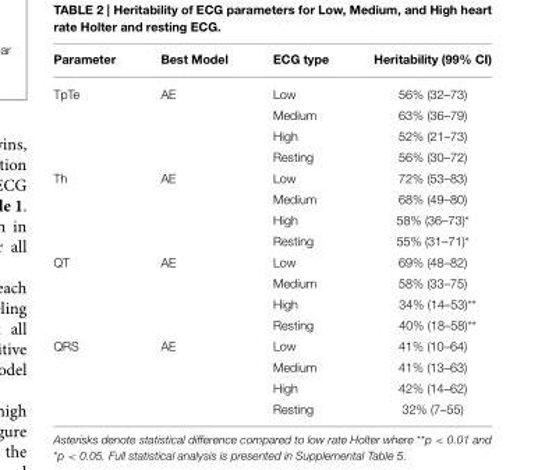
<table><thead><tr><td>Parameter</td><td>Best Model</td><td>ECG type</td><td>Heritability (99% CI)</td></tr></thead><tbody><tr><td rowspan="4">TpTe</td><td>AE</td><td>Low</td><td>56% (32–73)</td></tr><tr><td></td><td>Medium</td><td>63% (36–79)</td></tr><tr><td></td><td>High</td><td>52% (21–73)</td></tr><tr><td></td><td>Resting</td><td>56% (30–72)</td></tr><tr><td rowspan="4">Th</td><td>AE</td><td>Low</td><td>72% (53–83)</td></tr><tr><td></td><td>Medium</td><td>68% (49–80)</td></tr><tr><td></td><td>High</td><td>58% (36–73)*</td></tr><tr><td></td><td>Resting</td><td>55% (31–71)*</td></tr><tr><td rowspan="4">QT</td><td>AE</td><td>Low</td><td>69% (48–82)</td></tr><tr><td></td><td>Medium</td><td>58% (33–75)</td></tr><tr><td></td><td>High</td><td>34% (14–53)**</td></tr><tr><td></td><td>Resting</td><td>40% (18–58)**</td></tr><tr><td rowspan="4">QRS</td><td>AE</td><td>Low</td><td>41% (10–64)</td></tr><tr><td></td><td>Medium</td><td>41% (13–63)</td></tr><tr><td></td><td>High</td><td>42% (14–62)</td></tr><tr><td></td><td>Resting</td><td>32% (7–55)</td></tr></tbody></table>